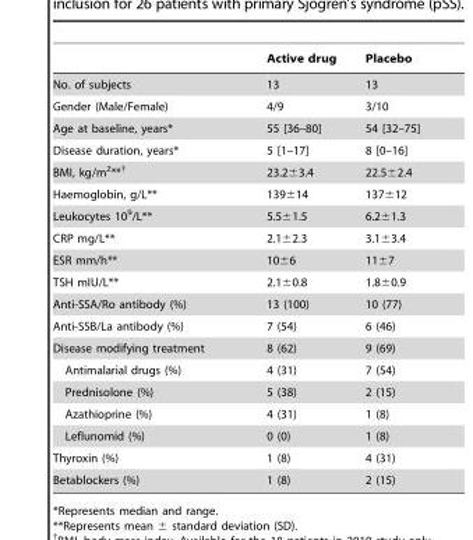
<table><thead><tr><td></td><td>Active drug</td><td>Placebo</td></tr></thead><tbody><tr><td>No. of subjects</td><td>13</td><td>13</td></tr><tr><td>Gender (Male/Female)</td><td>4/9</td><td>3/10</td></tr><tr><td>Age at baseline, years*</td><td>55 [36–80]</td><td>54 [32–75]</td></tr><tr><td>Disease duration, years*</td><td>5 [1–17]</td><td>8 [0–16]</td></tr><tr><td>BMI, kg/m<sup>2</sup>**†</td><td>23.2±3.4</td><td>22.5±2.4</td></tr><tr><td>Haemoglobin, g/L**</td><td>139±14</td><td>137±12</td></tr><tr><td>Leukocytes 10<sup>9</sup>/L**</td><td>5.5±1.5</td><td>6.2±1.3</td></tr><tr><td>CRP mg/L**</td><td>2.1±2.3</td><td>3.1±3.4</td></tr><tr><td>ESR mm/h**</td><td>10±6</td><td>11±7</td></tr><tr><td>TSH mIU/L**</td><td>2.1±0.8</td><td>1.8±0.9</td></tr><tr><td>Anti-SSA/Ro antibody (%)</td><td>13 (100)</td><td>10 (77)</td></tr><tr><td>Anti-SSB/La antibody (%)</td><td>7 (54)</td><td>6 (46)</td></tr><tr><td>Disease modifying treatment</td><td>8 (62)</td><td>9 (69)</td></tr><tr><td>Antimalarial drugs (%)</td><td>4 (31)</td><td>7 (54)</td></tr><tr><td>Prednisolone (%)</td><td>5 (38)</td><td>2 (15)</td></tr><tr><td>Azathioprine (%)</td><td>4 (31)</td><td>1 (8)</td></tr><tr><td>Leflunomid (%)</td><td>0 (0)</td><td>1 (8)</td></tr><tr><td>Thyroxin (%)</td><td>1 (8)</td><td>4 (31)</td></tr><tr><td>Betablockers (%)</td><td>1 (8)</td><td>2 (15)</td></tr></tbody></table>